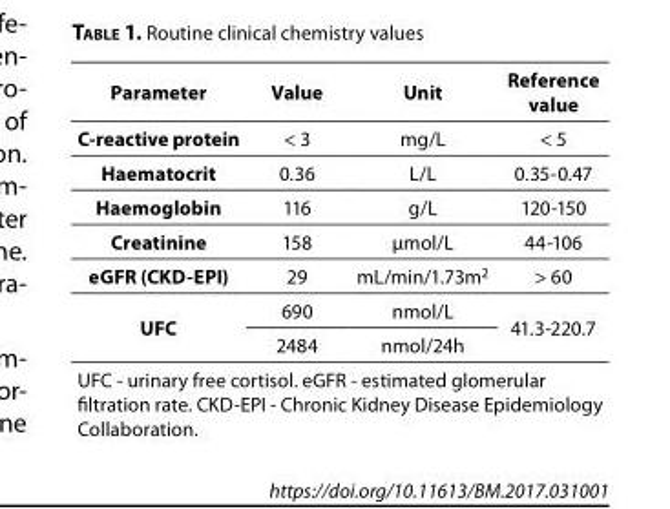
<table><thead><tr><td>Parameter</td><td>Value</td><td>Unit</td><td>Reference value</td></tr></thead><tbody><tr><td>C-reactive protein</td><td>&lt; 3</td><td>mg/L</td><td>&lt; 5</td></tr><tr><td>Haematocrit</td><td>0.36</td><td>L/L</td><td>0.35-0.47</td></tr><tr><td>Haemoglobin</td><td>116</td><td>g/L</td><td>120-150</td></tr><tr><td>Creatinine</td><td>158</td><td>μmol/L</td><td>44-106</td></tr><tr><td>eGFR (CKD-EPI)</td><td>29</td><td>mL/min/1.73m<sup>2</sup></td><td>&gt; 60</td></tr><tr><td rowspan="2">UFC</td><td>690</td><td>nmol/L</td><td rowspan="2">41.3-220.7</td></tr><tr><td>2484</td><td>nmol/24h</td></tr><tr><td colspan="4">UFC - urinary free cortisol. eGFR - estimated glomerular filtration rate. CKD-EPI - Chronic Kidney Disease Epidemiology Collaboration.</td></tr></tbody></table>